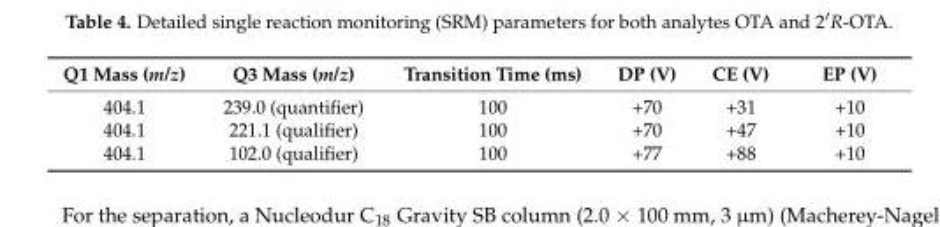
<table><thead><tr><td>Q1 Mass (m/z)</td><td>Q3 Mass (m/z)</td><td>Transition Time (ms)</td><td>DP (V)</td><td>CE (V)</td><td>EP (V)</td></tr></thead><tbody><tr><td>404.1</td><td>239.0 (quantifier)</td><td>100</td><td>+70</td><td>+31</td><td>+10</td></tr><tr><td>404.1</td><td>221.1 (qualifier)</td><td>100</td><td>+70</td><td>+47</td><td>+10</td></tr><tr><td>404.1</td><td>102.0 (qualifier)</td><td>100</td><td>+77</td><td>+88</td><td>+10</td></tr></tbody></table>